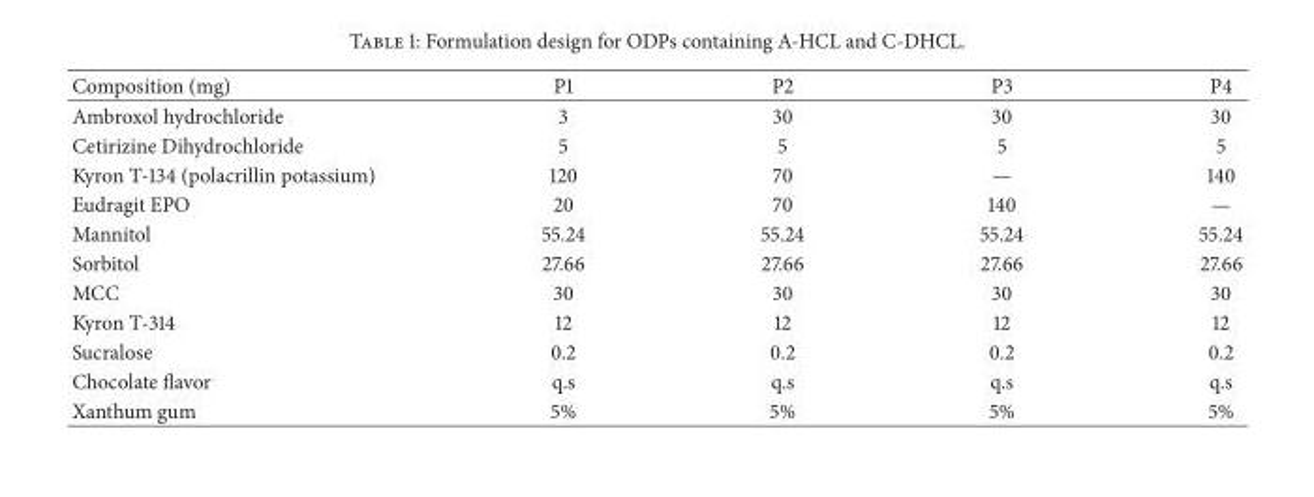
<table><thead><tr><td>Composition (mg)</td><td>P1</td><td>P2</td><td>P3</td><td>P4</td></tr></thead><tbody><tr><td>Ambroxol hydrochloride</td><td>3</td><td>30</td><td>30</td><td>30</td></tr><tr><td>Cetirizine Dihydrochloride</td><td>5</td><td>5</td><td>5</td><td>5</td></tr><tr><td>Kyron T-134 (polacrillin potassium)</td><td>120</td><td>70</td><td>—</td><td>140</td></tr><tr><td>Eudragit EPO</td><td>20</td><td>70</td><td>140</td><td>—</td></tr><tr><td>Mannitol</td><td>55.24</td><td>55.24</td><td>55.24</td><td>55.24</td></tr><tr><td>Sorbitol</td><td>27.66</td><td>27.66</td><td>27.66</td><td>27.66</td></tr><tr><td>MCC</td><td>30</td><td>30</td><td>30</td><td>30</td></tr><tr><td>Kyron T-314</td><td>12</td><td>12</td><td>12</td><td>12</td></tr><tr><td>Sucralose</td><td>0.2</td><td>0.2</td><td>0.2</td><td>0.2</td></tr><tr><td>Chocolate flavor</td><td>q.s</td><td>q.s</td><td>q.s</td><td>q.s</td></tr><tr><td>Xanthum gum</td><td>5%</td><td>5%</td><td>5%</td><td>5%</td></tr></tbody></table>